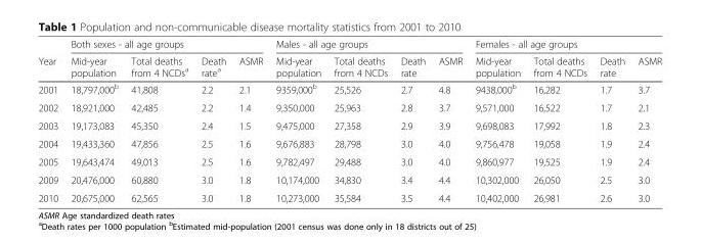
<table><thead><tr><td rowspan="2">Year</td><td colspan="4">Both sexes - all age groups</td><td colspan="4">Males - all age groups</td><td colspan="4">Females - all age groups</td></tr><tr><td>Mid-year population</td><td>Total deaths from 4 NCDs<sup>a</sup></td><td>Death rate<sup>a</sup></td><td>ASMR</td><td>Mid-year population</td><td>Total deaths from 4 NCDs</td><td>Death rate</td><td>ASMR</td><td>Mid-year population</td><td>Total deaths from 4 NCDs</td><td>Death rate</td><td>ASMR</td></tr></thead><tbody><tr><td>2001</td><td>18,797,000<sup>b</sup></td><td>41,808</td><td>2.2</td><td>2.1</td><td>9359,000<sup>b</sup></td><td>25,526</td><td>2.7</td><td>4.8</td><td>9438,000<sup>b</sup></td><td>16,282</td><td>1.7</td><td>3.7</td></tr><tr><td>2002</td><td>18,921,000</td><td>42,485</td><td>2.2</td><td>1.4</td><td>9,350,000</td><td>25,963</td><td>2.8</td><td>3.7</td><td>9,571,000</td><td>16,522</td><td>1.7</td><td>2.1</td></tr><tr><td>2003</td><td>19,173,083</td><td>45,350</td><td>2.4</td><td>1.5</td><td>9,475,000</td><td>27,358</td><td>2.9</td><td>3.9</td><td>9,698,083</td><td>17,992</td><td>1.8</td><td>2.3</td></tr><tr><td>2004</td><td>19,433,360</td><td>47,856</td><td>2.5</td><td>1.6</td><td>9,676,883</td><td>28,798</td><td>3.0</td><td>4.0</td><td>9,756,478</td><td>19,058</td><td>1.9</td><td>2.4</td></tr><tr><td>2005</td><td>19,643,474</td><td>49,013</td><td>2.5</td><td>1.6</td><td>9,782,497</td><td>29,488</td><td>3.0</td><td>4.0</td><td>9,860,977</td><td>19,525</td><td>1.9</td><td>2.4</td></tr><tr><td>2009</td><td>20,476,000</td><td>60,880</td><td>3.0</td><td>1.8</td><td>10,174,000</td><td>34,830</td><td>3.4</td><td>4.4</td><td>10,302,000</td><td>26,050</td><td>2.5</td><td>3.0</td></tr><tr><td>2010</td><td>20,675,000</td><td>62,565</td><td>3.0</td><td>1.8</td><td>10,273,000</td><td>35,584</td><td>3.5</td><td>4.4</td><td>10,402,000</td><td>26,981</td><td>2.6</td><td>3.0</td></tr></tbody></table>